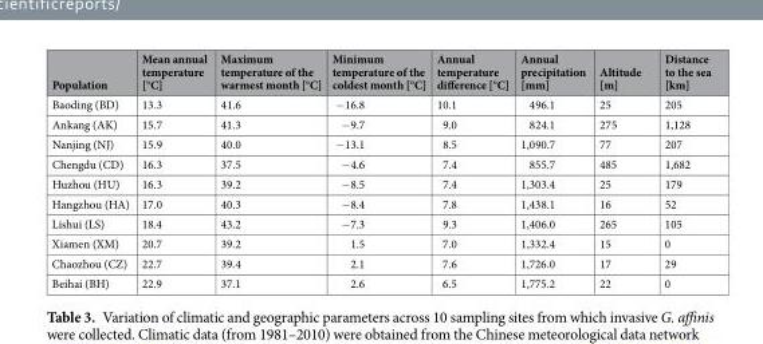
<table><thead><tr><td>Population</td><td>Mean annual temperature [°C]</td><td>Maximum temperature of the warmest month [°C]</td><td>Minimum temperature of the coldest month [°C]</td><td>Annual temperature difference [°C]</td><td>Annual precipitation [mm]</td><td>Altitude [m]</td><td>Distance to the sea [km]</td></tr></thead><tbody><tr><td>Baoding (BD)</td><td>13.3</td><td>41.6</td><td>−16.8</td><td>10.1</td><td>496.1</td><td>25</td><td>205</td></tr><tr><td>Ankang (AK)</td><td>15.7</td><td>41.3</td><td>−9.7</td><td>9.0</td><td>824.1</td><td>275</td><td>1,128</td></tr><tr><td>Nanjing (NJ)</td><td>15.9</td><td>40.0</td><td>−13.1</td><td>8.5</td><td>1,090.7</td><td>77</td><td>207</td></tr><tr><td>Chengdu (CD)</td><td>16.3</td><td>37.5</td><td>−4.6</td><td>7.4</td><td>855.7</td><td>485</td><td>1,682</td></tr><tr><td>Huzhou (HU)</td><td>16.3</td><td>39.2</td><td>−8.5</td><td>7.4</td><td>1,303.4</td><td>25</td><td>179</td></tr><tr><td>Hangzhou (HA)</td><td>17.0</td><td>40.3</td><td>−8.4</td><td>7.8</td><td>1,438.1</td><td>16</td><td>52</td></tr><tr><td>Lishui (LS)</td><td>18.4</td><td>43.2</td><td>−7.3</td><td>9.3</td><td>1,406.0</td><td>265</td><td>105</td></tr><tr><td>Xiamen (XM)</td><td>20.7</td><td>39.2</td><td>1.5</td><td>7.0</td><td>1,332.4</td><td>15</td><td>0</td></tr><tr><td>Chaozhou (CZ)</td><td>22.7</td><td>39.4</td><td>2.1</td><td>7.6</td><td>1,726.0</td><td>17</td><td>29</td></tr><tr><td>Beihai (BH)</td><td>22.9</td><td>37.1</td><td>2.6</td><td>6.5</td><td>1,775.2</td><td>22</td><td>0</td></tr></tbody></table>